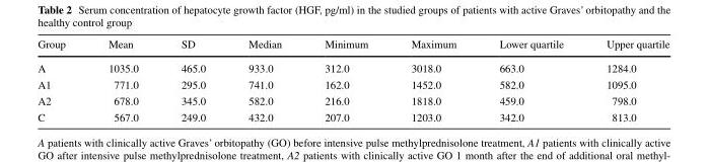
<table><thead><tr><td>Group</td><td>Mean</td><td>SD</td><td>Median</td><td>Minimum</td><td>Maximum</td><td>Lower quartile</td><td>Upper quartile</td></tr></thead><tbody><tr><td>A</td><td>1035.0</td><td>465.0</td><td>933.0</td><td>312.0</td><td>3018.0</td><td>663.0</td><td>1284.0</td></tr><tr><td>A1</td><td>771.0</td><td>295.0</td><td>741.0</td><td>162.0</td><td>1452.0</td><td>582.0</td><td>1095.0</td></tr><tr><td>A2</td><td>678.0</td><td>345.0</td><td>582.0</td><td>216.0</td><td>1818.0</td><td>459.0</td><td>798.0</td></tr><tr><td>C</td><td>567.0</td><td>249.0</td><td>432.0</td><td>207.0</td><td>1203.0</td><td>342.0</td><td>813.0</td></tr></tbody></table>